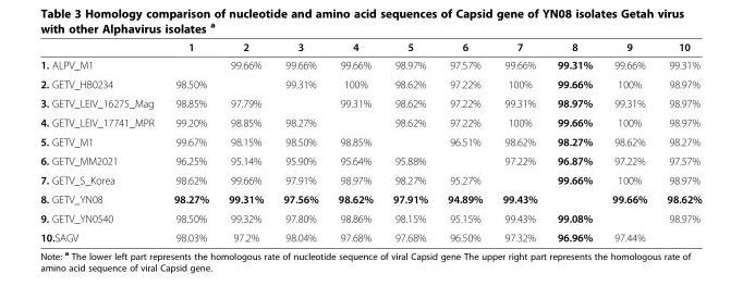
<table><thead><tr><td></td><td>1</td><td>2</td><td>3</td><td>4</td><td>5</td><td>6</td><td>7</td><td>8</td><td>9</td><td>10</td></tr></thead><tbody><tr><td>1. ALPV_M1</td><td></td><td>99.66%</td><td>99.66%</td><td>99.66%</td><td>98.97%</td><td>97.57%</td><td>99.66%</td><td>99.31%</td><td>99.66%</td><td>99.31%</td></tr><tr><td>2. GETV_HB0234</td><td>98.50%</td><td></td><td>99.31%</td><td>100%</td><td>98.62%</td><td>97.22%</td><td>100%</td><td>99.66%</td><td>100%</td><td>98.97%</td></tr><tr><td>3. GETV_LEIV_16275_Mag</td><td>98.85%</td><td>97.79%</td><td></td><td>99.31%</td><td>98.62%</td><td>97.22%</td><td>99.31%</td><td>98.97%</td><td>99.31%</td><td>98.97%</td></tr><tr><td>4. GETV_LEIV_17741_MPR</td><td>99.20%</td><td>98.85%</td><td>98.27%</td><td></td><td>98.62%</td><td>97.22%</td><td>100%</td><td>99.66%</td><td>100%</td><td>98.97%</td></tr><tr><td>5. GETV_M1</td><td>99.67%</td><td>98.15%</td><td>98.50%</td><td>98.85%</td><td></td><td>96.51%</td><td>98.62%</td><td>98.27%</td><td>98.62%</td><td>98.27%</td></tr><tr><td>6. GETV_MM2021</td><td>96.25%</td><td>95.14%</td><td>95.90%</td><td>95.64%</td><td>95.88%</td><td></td><td>97.22%</td><td>96.87%</td><td>97.22%</td><td>97.57%</td></tr><tr><td>7. GETV_S_Korea</td><td>98.62%</td><td>99.66%</td><td>97.91%</td><td>98.97%</td><td>98.27%</td><td>95.27%</td><td></td><td>99.66%</td><td>100%</td><td>98.97%</td></tr><tr><td>8. GETV_YN08</td><td>98.27%</td><td>99.31%</td><td>97.56%</td><td>98.62%</td><td>97.91%</td><td>94.89%</td><td>99.43%</td><td></td><td>99.66%</td><td>98.62%</td></tr><tr><td>9. GETV_YN0540</td><td>98.50%</td><td>99.32%</td><td>97.80%</td><td>98.86%</td><td>98.15%</td><td>95.15%</td><td>99.43%</td><td>99.08%</td><td></td><td>98.97%</td></tr><tr><td>10.SAGV</td><td>98.03%</td><td>97.2%</td><td>98.04%</td><td>97.68%</td><td>97.68%</td><td>96.50%</td><td>97.32%</td><td>96.96%</td><td>97.44%</td><td></td></tr></tbody></table>